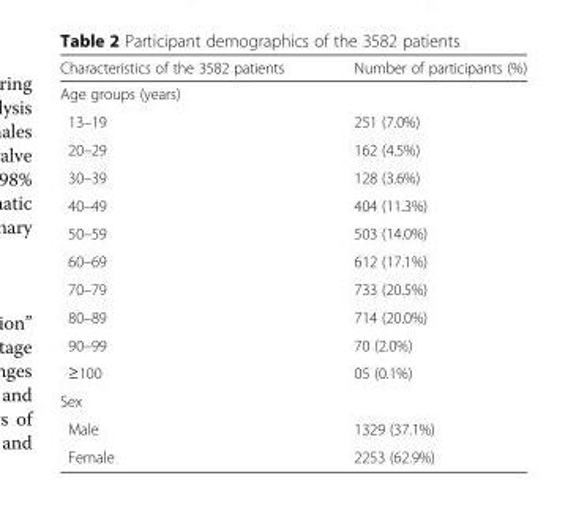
<table><thead><tr><td>Characteristics of the 3582 patients</td><td>Number of participants (%)</td></tr></thead><tbody><tr><td colspan="2">Age groups (years)</td></tr><tr><td>13–19</td><td>251 (7.0%)</td></tr><tr><td>20–29</td><td>162 (4.5%)</td></tr><tr><td>30–39</td><td>128 (3.6%)</td></tr><tr><td>40–49</td><td>404 (11.3%)</td></tr><tr><td>50–59</td><td>503 (14.0%)</td></tr><tr><td>60–69</td><td>612 (17.1%)</td></tr><tr><td>70–79</td><td>733 (20.5%)</td></tr><tr><td>80–89</td><td>714 (20.0%)</td></tr><tr><td>90–99</td><td>70 (2.0%)</td></tr><tr><td>≥100</td><td>05 (0.1%)</td></tr><tr><td colspan="2">Sex</td></tr><tr><td>Male</td><td>1329 (37.1%)</td></tr><tr><td>Female</td><td>2253 (62.9%)</td></tr></tbody></table>